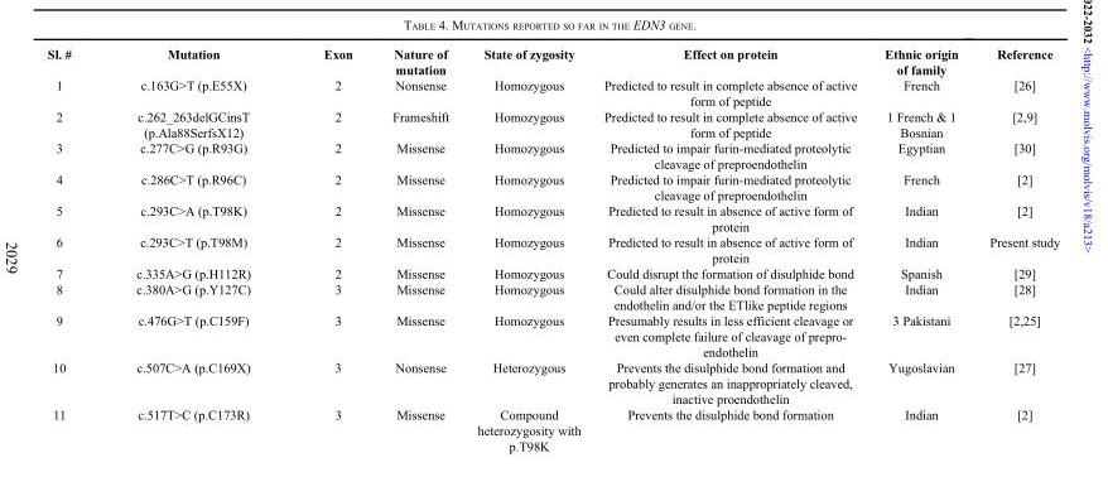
<table><thead><tr><td>Sl. #</td><td>Mutation</td><td>Exon</td><td>Nature of mutation</td><td>State of zygosity</td><td>Effect on protein</td><td>Ethnic origin of family</td><td>Reference</td></tr></thead><tbody><tr><td>1</td><td>c.163G&gt;T (p.E55X)</td><td>2</td><td>Nonsense</td><td>Homozygous</td><td>Predicted to result in complete absence of active form of peptide</td><td>French</td><td>[26]</td></tr><tr><td>2</td><td>c.262_263delGCinsT (p.Ala88SerfsX12)</td><td>2</td><td>Frameshift</td><td>Homozygous</td><td>Predicted to result in complete absence of active form of peptide</td><td>1 French &amp; 1 Bosnian</td><td>[2,9]</td></tr><tr><td>3</td><td>c.277C&gt;G (p.R93G)</td><td>2</td><td>Missense</td><td>Homozygous</td><td>Predicted to impair furin-mediated proteolytic cleavage of preproendothelin</td><td>Egyptian</td><td>[30]</td></tr><tr><td>4</td><td>c.286C&gt;T (p.R96C)</td><td>2</td><td>Missense</td><td>Homozygous</td><td>Predicted to impair furin-mediated proteolytic cleavage of preproendothelin</td><td>French</td><td>[2]</td></tr><tr><td>5</td><td>c.293C&gt;A (p.T98K)</td><td>2</td><td>Missense</td><td>Homozygous</td><td>Predicted to result in absence of active form of protein</td><td>Indian</td><td>[2]</td></tr><tr><td>6</td><td>c.293C&gt;T (p.T98M)</td><td>2</td><td>Missense</td><td>Homozygous</td><td>Predicted to result in absence of active form of protein</td><td>Indian</td><td>Present study</td></tr><tr><td>7</td><td>c.335A&gt;G (p.H112R)</td><td>2</td><td>Missense</td><td>Homozygous</td><td>Could disrupt the formation of disulphide bond</td><td>Spanish</td><td>[29]</td></tr><tr><td>8</td><td>c.380A&gt;G (p.Y127C)</td><td>3</td><td>Missense</td><td>Homozygous</td><td>Could alter disulphide bond formation in the endothelin and/or the ETlike peptide regions</td><td>Indian</td><td>[28]</td></tr><tr><td>9</td><td>c.476G&gt;T (p.C159F)</td><td>3</td><td>Missense</td><td>Homozygous</td><td>Presumably results in less efficient cleavage or even complete failure of cleavage of prepro- endothelin</td><td>3 Pakistani</td><td>[2,25]</td></tr><tr><td>10</td><td>c.507C&gt;A (p.C169X)</td><td>3</td><td>Nonsense</td><td>Heterozygous</td><td>Prevents the disulphide bond formation and probably generates an inappropriately cleaved, inactive proendothelin</td><td>Yugoslavian</td><td>[27]</td></tr><tr><td>11</td><td>c.517T&gt;C (p.C173R)</td><td>3</td><td>Missense</td><td>Compound heterozygosity with p.T98K</td><td>Prevents the disulphide bond formation</td><td>Indian</td><td>[2]</td></tr></tbody></table>